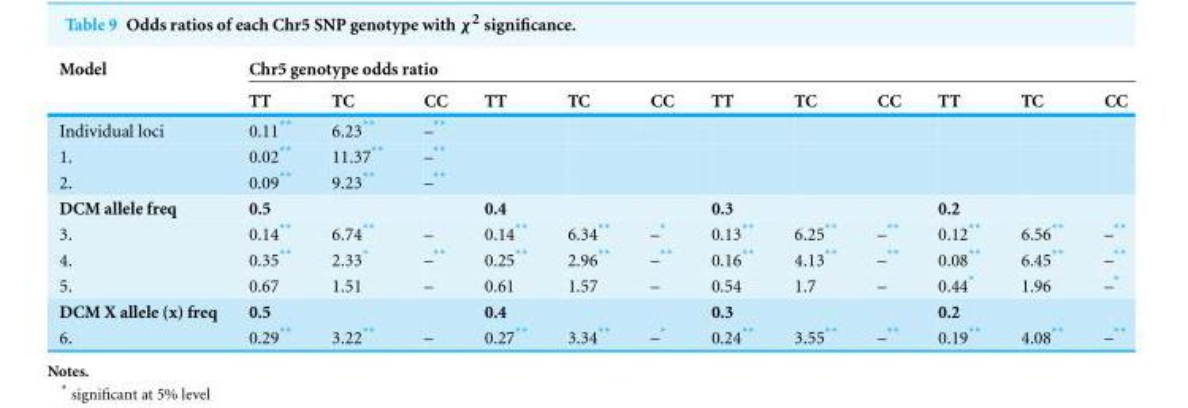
<table><thead><tr><td rowspan="2">Model</td><td colspan="12">Chr5 genotype odds ratio</td></tr><tr><td>TT</td><td>TC</td><td>CC</td><td>TT</td><td>TC</td><td>CC</td><td>TT</td><td>TC</td><td>CC</td><td>TT</td><td>TC</td><td>CC</td></tr></thead><tbody><tr><td>Individual loci</td><td>0.11**</td><td>6.23**</td><td>–**</td><td></td><td></td><td></td><td></td><td></td><td></td><td></td><td></td><td></td></tr><tr><td>1.</td><td>0.02**</td><td>11.37**</td><td>–**</td><td></td><td></td><td></td><td></td><td></td><td></td><td></td><td></td><td></td></tr><tr><td>2.</td><td>0.09**</td><td>9.23**</td><td>–**</td><td></td><td></td><td></td><td></td><td></td><td></td><td></td><td></td><td></td></tr><tr><td>DCM allele freq</td><td colspan="3">0.5</td><td colspan="3">0.4</td><td colspan="3">0.3</td><td colspan="3">0.2</td></tr><tr><td>3.</td><td>0.14**</td><td>6.74**</td><td>–</td><td>0.14**</td><td>6.34**</td><td>–*</td><td>0.13**</td><td>6.25**</td><td>–**</td><td>0.12**</td><td>6.56**</td><td>–**</td></tr><tr><td>4.</td><td>0.35**</td><td>2.33*</td><td>–**</td><td>0.25**</td><td>2.96**</td><td>–**</td><td>0.16**</td><td>4.13**</td><td>–**</td><td>0.08**</td><td>6.45**</td><td>–**</td></tr><tr><td>5.</td><td>0.67</td><td>1.51</td><td>–</td><td>0.61</td><td>1.57</td><td>–</td><td>0.54</td><td>1.7</td><td>–</td><td>0.44*</td><td>1.96</td><td>–*</td></tr><tr><td>DCM X allele (x) freq</td><td colspan="3">0.5</td><td colspan="3">0.4</td><td colspan="3">0.3</td><td colspan="3">0.2</td></tr><tr><td>6.</td><td>0.29**</td><td>3.22**</td><td>–</td><td>0.27**</td><td>3.34**</td><td>–*</td><td>0.24**</td><td>3.55**</td><td>–**</td><td>0.19**</td><td>4.08**</td><td>–**</td></tr></tbody></table>